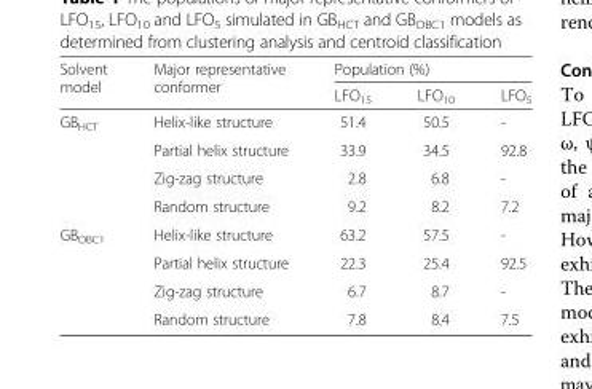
<table><thead><tr><td rowspan="2">Solvent model</td><td rowspan="2">Major representative conformer</td><td colspan="3">Population (%)</td></tr><tr><td>LFO<sub>15</sub></td><td>LFO<sub>10</sub></td><td>LFO<sub>5</sub></td></tr></thead><tbody><tr><td rowspan="4">GB<sub>HCT</sub></td><td>Helix-like structure</td><td>51.4</td><td>50.5</td><td>-</td></tr><tr><td>Partial helix structure</td><td>33.9</td><td>34.5</td><td>92.8</td></tr><tr><td>Zig-zag structure</td><td>2.8</td><td>6.8</td><td>-</td></tr><tr><td>Random structure</td><td>9.2</td><td>8.2</td><td>7.2</td></tr><tr><td rowspan="4">GB<sub>OBC1</sub></td><td>Helix-like structure</td><td>63.2</td><td>57.5</td><td>-</td></tr><tr><td>Partial helix structure</td><td>22.3</td><td>25.4</td><td>92.5</td></tr><tr><td>Zig-zag structure</td><td>6.7</td><td>8.7</td><td>-</td></tr><tr><td>Random structure</td><td>7.8</td><td>8.4</td><td>7.5</td></tr></tbody></table>